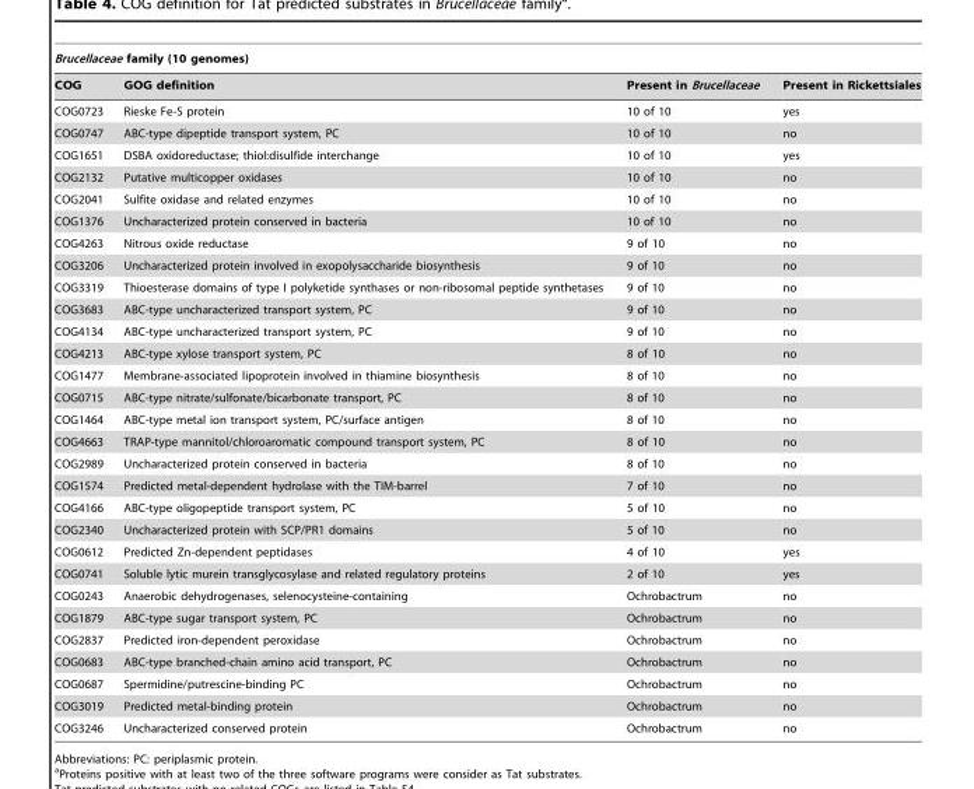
<table><thead><tr><td colspan="4">Brucellaceae family (10 genomes)</td></tr><tr><td>COG</td><td>GOG definition</td><td>Present in Brucellaceae</td><td>Present in Rickettsiales</td></tr></thead><tbody><tr><td>COG0723</td><td>Rieske Fe-S protein</td><td>10 of 10</td><td>yes</td></tr><tr><td>COG0747</td><td>ABC-type dipeptide transport system, PC</td><td>10 of 10</td><td>no</td></tr><tr><td>COG1651</td><td>DSBA oxidoreductase; thiol:disulfide interchange</td><td>10 of 10</td><td>yes</td></tr><tr><td>COG2132</td><td>Putative multicopper oxidases</td><td>10 of 10</td><td>no</td></tr><tr><td>COG2041</td><td>Sulfite oxidase and related enzymes</td><td>10 of 10</td><td>no</td></tr><tr><td>COG1376</td><td>Uncharacterized protein conserved in bacteria</td><td>10 of 10</td><td>no</td></tr><tr><td>COG4263</td><td>Nitrous oxide reductase</td><td>9 of 10</td><td>no</td></tr><tr><td>COG3206</td><td>Uncharacterized protein involved in exopolysaccharide biosynthesis</td><td>9 of 10</td><td>no</td></tr><tr><td>COG3319</td><td>Thioesterase domains of type I polyketide synthases or non-ribosomal peptide synthetases</td><td>9 of 10</td><td>no</td></tr><tr><td>COG3683</td><td>ABC-type uncharacterized transport system, PC</td><td>9 of 10</td><td>no</td></tr><tr><td>COG4134</td><td>ABC-type uncharacterized transport system, PC</td><td>9 of 10</td><td>no</td></tr><tr><td>COG4213</td><td>ABC-type xylose transport system, PC</td><td>8 of 10</td><td>no</td></tr><tr><td>COG1477</td><td>Membrane-associated lipoprotein involved in thiamine biosynthesis</td><td>8 of 10</td><td>no</td></tr><tr><td>COG0715</td><td>ABC-type nitrate/sulfonate/bicarbonate transport, PC</td><td>8 of 10</td><td>no</td></tr><tr><td>COG1464</td><td>ABC-type metal ion transport system, PC/surface antigen</td><td>8 of 10</td><td>no</td></tr><tr><td>COG4663</td><td>TRAP-type mannitol/chloroaromatic compound transport system, PC</td><td>8 of 10</td><td>no</td></tr><tr><td>COG2989</td><td>Uncharacterized protein conserved in bacteria</td><td>8 of 10</td><td>no</td></tr><tr><td>COG1574</td><td>Predicted metal-dependent hydrolase with the TIM-barrel</td><td>7 of 10</td><td>no</td></tr><tr><td>COG4166</td><td>ABC-type oligopeptide transport system, PC</td><td>5 of 10</td><td>no</td></tr><tr><td>COG2340</td><td>Uncharacterized protein with SCP/PR1 domains</td><td>5 of 10</td><td>no</td></tr><tr><td>COG0612</td><td>Predicted Zn-dependent peptidases</td><td>4 of 10</td><td>yes</td></tr><tr><td>COG0741</td><td>Soluble lytic murein transglycosylase and related regulatory proteins</td><td>2 of 10</td><td>yes</td></tr><tr><td>COG0243</td><td>Anaerobic dehydrogenases, selenocysteine-containing</td><td>Ochrobactrum</td><td>no</td></tr><tr><td>COG1879</td><td>ABC-type sugar transport system, PC</td><td>Ochrobactrum</td><td>no</td></tr><tr><td>COG2837</td><td>Predicted iron-dependent peroxidase</td><td>Ochrobactrum</td><td>no</td></tr><tr><td>COG0683</td><td>ABC-type branched-chain amino acid transport, PC</td><td>Ochrobactrum</td><td>no</td></tr><tr><td>COG0687</td><td>Spermidine/putrescine-binding PC</td><td>Ochrobactrum</td><td>no</td></tr><tr><td>COG3019</td><td>Predicted metal-binding protein</td><td>Ochrobactrum</td><td>no</td></tr><tr><td>COG3246</td><td>Uncharacterized conserved protein</td><td>Ochrobactrum</td><td>no</td></tr></tbody></table>